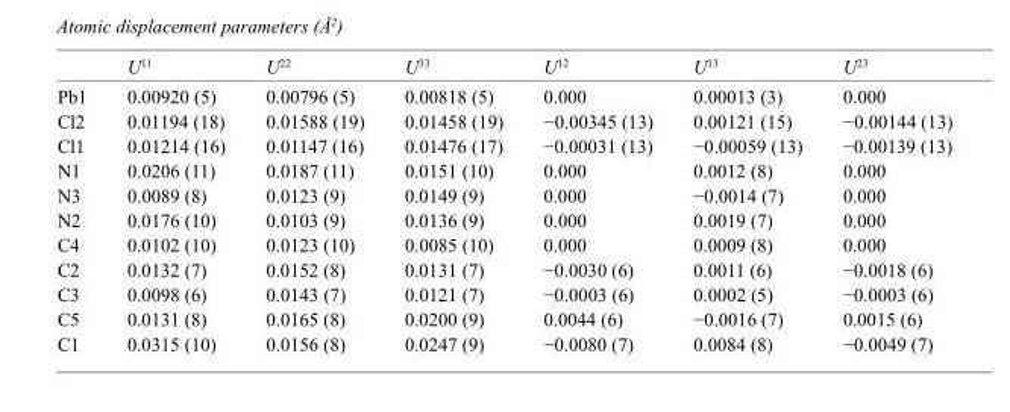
<table><thead><tr><td></td><td>U<sup>11</sup></td><td>U<sup>22</sup></td><td>U<sup>33</sup></td><td>U<sup>12</sup></td><td>U<sup>13</sup></td><td>U<sup>23</sup></td></tr></thead><tbody><tr><td>Pb1</td><td>0.00920 (5)</td><td>0.00796 (5)</td><td>0.00818 (5)</td><td>0.000</td><td>0.00013 (3)</td><td>0.000</td></tr><tr><td>Cl2</td><td>0.01194 (18)</td><td>0.01588 (19)</td><td>0.01458 (19)</td><td>−0.00345 (13)</td><td>0.00121 (15)</td><td>−0.00144 (13)</td></tr><tr><td>Cl1</td><td>0.01214 (16)</td><td>0.01147 (16)</td><td>0.01476 (17)</td><td>−0.00031 (13)</td><td>−0.00059 (13)</td><td>−0.00139 (13)</td></tr><tr><td>N1</td><td>0.0206 (11)</td><td>0.0187 (11)</td><td>0.0151 (10)</td><td>0.000</td><td>0.0012 (8)</td><td>0.000</td></tr><tr><td>N3</td><td>0.0089 (8)</td><td>0.0123 (9)</td><td>0.0149 (9)</td><td>0.000</td><td>−0.0014 (7)</td><td>0.000</td></tr><tr><td>N2</td><td>0.0176 (10)</td><td>0.0103 (9)</td><td>0.0136 (9)</td><td>0.000</td><td>0.0019 (7)</td><td>0.000</td></tr><tr><td>C4</td><td>0.0102 (10)</td><td>0.0123 (10)</td><td>0.0085 (10)</td><td>0.000</td><td>0.0009 (8)</td><td>0.000</td></tr><tr><td>C2</td><td>0.0132 (7)</td><td>0.0152 (8)</td><td>0.0131 (7)</td><td>−0.0030 (6)</td><td>0.0011 (6)</td><td>−0.0018 (6)</td></tr><tr><td>C3</td><td>0.0098 (6)</td><td>0.0143 (7)</td><td>0.0121 (7)</td><td>−0.0003 (6)</td><td>0.0002 (5)</td><td>−0.0003 (6)</td></tr><tr><td>C5</td><td>0.0131 (8)</td><td>0.0165 (8)</td><td>0.0200 (9)</td><td>0.0044 (6)</td><td>−0.0016 (7)</td><td>0.0015 (6)</td></tr><tr><td>C1</td><td>0.0315 (10)</td><td>0.0156 (8)</td><td>0.0247 (9)</td><td>−0.0080 (7)</td><td>0.0084 (8)</td><td>−0.0049 (7)</td></tr></tbody></table>